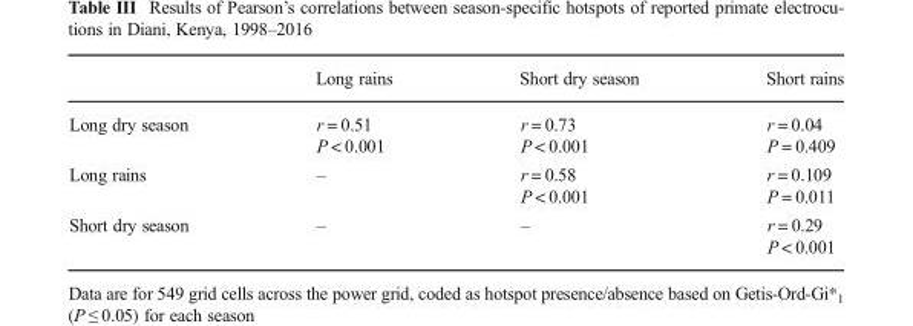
<table><thead><tr><td></td><td>Long rains</td><td>Short dry season</td><td>Short rains</td></tr></thead><tbody><tr><td>Long dry season</td><td>r = 0.51 P &lt; 0.001</td><td>r = 0.73 P &lt; 0.001</td><td>r = 0.04 P = 0.409</td></tr><tr><td>Long rains</td><td>–</td><td>r = 0.58 P &lt; 0.001</td><td>r = 0.109 P = 0.011</td></tr><tr><td>Short dry season</td><td>–</td><td>–</td><td>r = 0.29 P &lt; 0.001</td></tr></tbody></table>